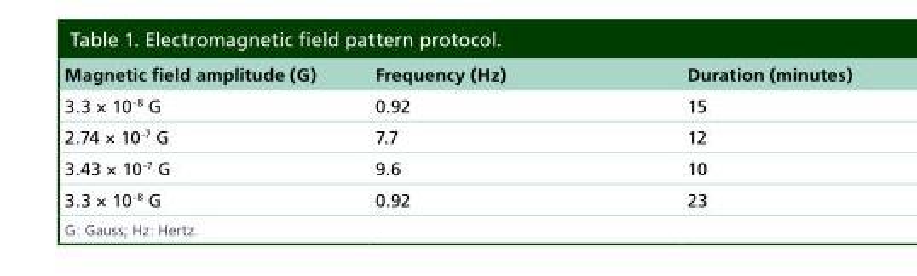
<table><thead><tr><td>Magnetic field amplitude (G)</td><td>Frequency (Hz)</td><td>Duration (minutes)</td></tr></thead><tbody><tr><td>3.3 × 10<sup>-8</sup> G</td><td>0.92</td><td>15</td></tr><tr><td>2.74 × 10<sup>-7</sup> G</td><td>7.7</td><td>12</td></tr><tr><td>3.43 × 10<sup>-7</sup> G</td><td>9.6</td><td>10</td></tr><tr><td>3.3 × 10<sup>-8</sup> G</td><td>0.92</td><td>23</td></tr></tbody></table>